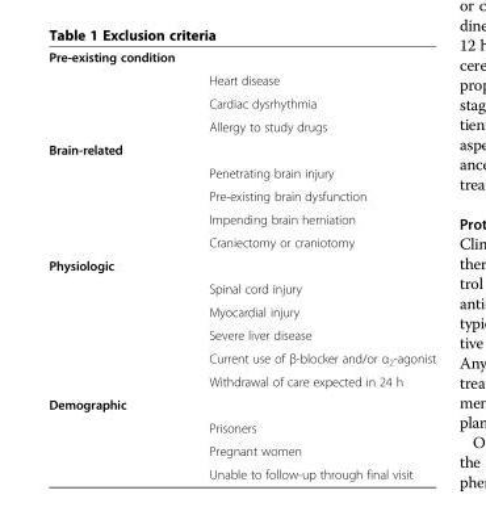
<table><tbody><tr><td colspan="2">Pre-existing condition</td></tr><tr><td></td><td>Heart disease</td></tr><tr><td></td><td>Cardiac dysrhythmia</td></tr><tr><td></td><td>Allergy to study drugs</td></tr><tr><td colspan="2">Brain-related</td></tr><tr><td></td><td>Penetrating brain injury</td></tr><tr><td></td><td>Pre-existing brain dysfunction</td></tr><tr><td></td><td>Impending brain herniation</td></tr><tr><td></td><td>Craniectomy or craniotomy</td></tr><tr><td colspan="2">Physiologic</td></tr><tr><td></td><td>Spinal cord injury</td></tr><tr><td></td><td>Myocardial injury</td></tr><tr><td></td><td>Severe liver disease</td></tr><tr><td></td><td>Current use of β-blocker and/or α<sub>2</sub>-agonist</td></tr><tr><td></td><td>Withdrawal of care expected in 24 h</td></tr><tr><td colspan="2">Demographic</td></tr><tr><td></td><td>Prisoners</td></tr><tr><td></td><td>Pregnant women</td></tr><tr><td></td><td>Unable to follow-up through final visit</td></tr></tbody></table>